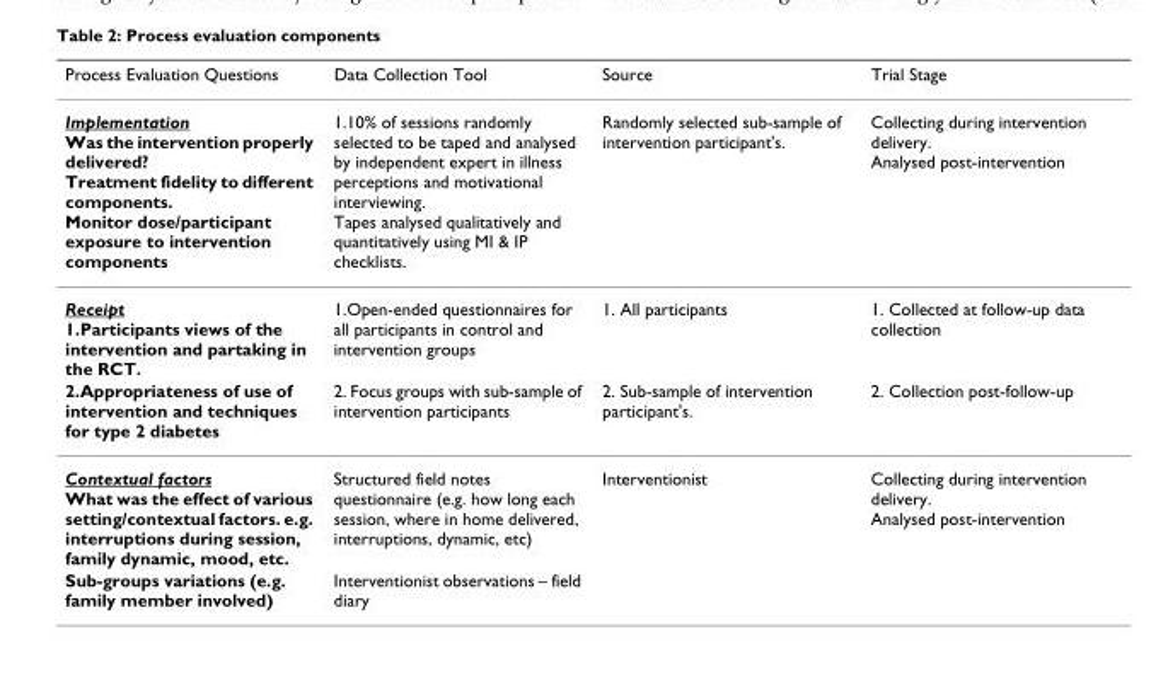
<table><thead><tr><td>Process Evaluation Questions</td><td>Data Collection Tool</td><td>Source</td><td>Trial Stage</td></tr></thead><tbody><tr><td>Implementation Was the intervention properly delivered? Treatment fidelity to different components. Monitor dose/participant exposure to intervention components</td><td>1.10% of sessions randomly selected to be taped and analysed by independent expert in illness perceptions and motivational interviewing. Tapes analysed qualitatively and quantitatively using MI &amp; IP checklists.</td><td>Randomly selected sub-sample of intervention participant&#x27;s.</td><td>Collecting during intervention delivery. Analysed post-intervention</td></tr><tr><td>Receipt 1.Participants views of the intervention and partaking in the RCT.</td><td>1.Open-ended questionnaires for all participants in control and intervention groups</td><td>1. All participants</td><td>1. Collected at follow-up data collection</td></tr><tr><td>2.Appropriateness of use of intervention and techniques for type 2 diabetes</td><td>2. Focus groups with sub-sample of intervention participants</td><td>2. Sub-sample of intervention participant&#x27;s.</td><td>2. Collection post-follow-up</td></tr><tr><td>Contextual factors What was the effect of various setting/contextual factors. e.g. interruptions during session, family dynamic, mood, etc.</td><td>Structured field notes questionnaire (e.g. how long each session, where in home delivered, interruptions, dynamic, etc)</td><td>Interventionist</td><td>Collecting during intervention delivery. Analysed post-intervention</td></tr><tr><td>Sub-groups variations (e.g. family member involved)</td><td>Interventionist observations – field diary</td><td></td><td></td></tr></tbody></table>